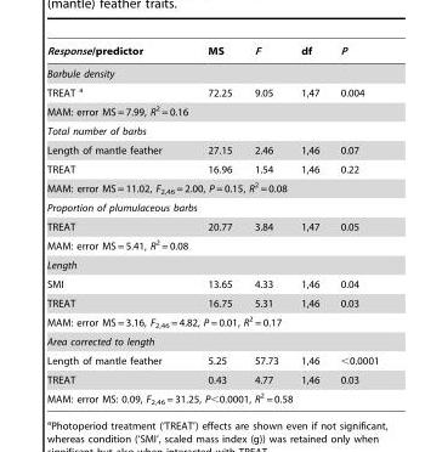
<table><thead><tr><td>Response/predictor</td><td>MS</td><td>F</td><td>df</td><td>P</td></tr></thead><tbody><tr><td colspan="5">Barbule density</td></tr><tr><td>TREAT a</td><td>72.25</td><td>9.05</td><td>1,47</td><td>0.004</td></tr><tr><td colspan="5">MAM: error MS = 7.99, R<sup>2</sup> = 0.16</td></tr><tr><td colspan="5">Total number of barbs</td></tr><tr><td>Length of mantle feather</td><td>27.15</td><td>2.46</td><td>1,46</td><td>0.07</td></tr><tr><td>TREAT</td><td>16.96</td><td>1.54</td><td>1,46</td><td>0.22</td></tr><tr><td colspan="5">MAM: error MS = 11.02, F<sub>2,46</sub> = 2.00, P = 0.15, R<sup>2</sup> = 0.08</td></tr><tr><td colspan="5">Proportion of plumulaceous barbs</td></tr><tr><td>TREAT</td><td>20.77</td><td>3.84</td><td>1,47</td><td>0.05</td></tr><tr><td colspan="5">MAM: error MS = 5.41, R<sup>2</sup> = 0.08</td></tr><tr><td colspan="5">Length</td></tr><tr><td>SMI</td><td>13.65</td><td>4.33</td><td>1,46</td><td>0.04</td></tr><tr><td>TREAT</td><td>16.75</td><td>5.31</td><td>1,46</td><td>0.03</td></tr><tr><td colspan="5">MAM: error MS = 3.16, F<sub>2,46</sub> = 4.82, P = 0.01, R<sup>2</sup> = 0.17</td></tr><tr><td colspan="5">Area corrected to length</td></tr><tr><td>Length of mantle feather</td><td>5.25</td><td>57.73</td><td>1,46</td><td>&lt;0.0001</td></tr><tr><td>TREAT</td><td>0.43</td><td>4.77</td><td>1,46</td><td>0.03</td></tr><tr><td colspan="5">MAM: error MS: 0.09, F<sub>2,46</sub> = 31.25, P&lt;0.0001, R<sup>2</sup> = 0.58</td></tr></tbody></table>